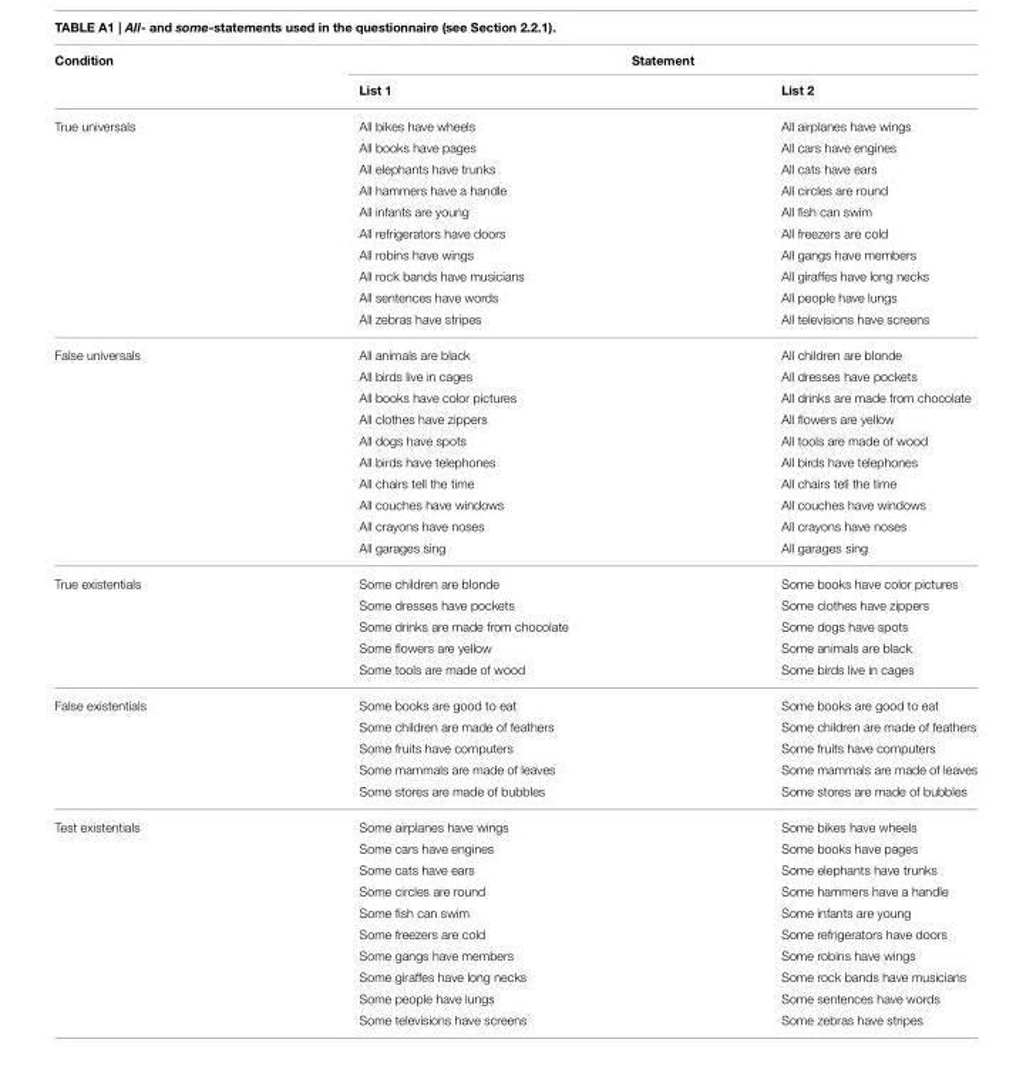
<table><thead><tr><td rowspan="2">Condition</td><td colspan="2">Statement</td></tr><tr><td>List 1</td><td>List 2</td></tr></thead><tbody><tr><td rowspan="10">True universals</td><td>All bikes have wheels</td><td>All airplanes have wings</td></tr><tr><td>All books have pages</td><td>All cars have engines</td></tr><tr><td>All elephants have trunks</td><td>All cats have ears</td></tr><tr><td>All hammers have a handle</td><td>All circles are round</td></tr><tr><td>All infants are young</td><td>All fish can swim</td></tr><tr><td>All refrigerators have doors</td><td>All freezers are cold</td></tr><tr><td>All robins have wings</td><td>All gangs have members</td></tr><tr><td>All rock bands have musicians</td><td>All giraffes have long necks</td></tr><tr><td>All sentences have words</td><td>All people have lungs</td></tr><tr><td>All zebras have stripes</td><td>All televisions have screens</td></tr><tr><td rowspan="10">False universals</td><td>All animals are black</td><td>All children are blonde</td></tr><tr><td>All birds live in cages</td><td>All dresses have pockets</td></tr><tr><td>All books have color pictures</td><td>All drinks are made from chocolate</td></tr><tr><td>All clothes have zippers</td><td>All flowers are yellow</td></tr><tr><td>All dogs have spots</td><td>All tools are made of wood</td></tr><tr><td>All birds have telephones</td><td>All birds have telephones</td></tr><tr><td>All chairs tell the time</td><td>All chairs tell the time</td></tr><tr><td>All couches have windows</td><td>All couches have windows</td></tr><tr><td>All crayons have noses</td><td>All crayons have noses</td></tr><tr><td>All garages sing</td><td>All garages sing</td></tr><tr><td rowspan="5">True existentials</td><td>Some children are blonde</td><td>Some books have color pictures</td></tr><tr><td>Some dresses have pockets</td><td>Some clothes have zippers</td></tr><tr><td>Some drinks are made from chocolate</td><td>Some dogs have spots</td></tr><tr><td>Some flowers are yellow</td><td>Some animals are black</td></tr><tr><td>Some tools are made of wood</td><td>Some birds live in cages</td></tr><tr><td rowspan="5">False existentials</td><td>Some books are good to eat</td><td>Some books are good to eat</td></tr><tr><td>Some children are made of feathers</td><td>Some children are made of feathers</td></tr><tr><td>Some fruits have computers</td><td>Some fruits have computers</td></tr><tr><td>Some mammals are made of leaves</td><td>Some mammals are made of leaves</td></tr><tr><td>Some stores are made of bubbles</td><td>Some stores are made of bubbles</td></tr><tr><td rowspan="10">Test existentials</td><td>Some airplanes have wings</td><td>Some bikes have wheels</td></tr><tr><td>Some cars have engines</td><td>Some books have pages</td></tr><tr><td>Some cats have ears</td><td>Some elephants have trunks</td></tr><tr><td>Some circles are round</td><td>Some hammers have a handle</td></tr><tr><td>Some fish can swim</td><td>Some infants are young</td></tr><tr><td>Some freezers are cold</td><td>Some refrigerators have doors</td></tr><tr><td>Some gangs have members</td><td>Some robins have wings</td></tr><tr><td>Some giraffes have long necks</td><td>Some rock bands have musicians</td></tr><tr><td>Some people have lungs</td><td>Some sentences have words</td></tr><tr><td>Some televisions have screens</td><td>Some zebras have stripes</td></tr></tbody></table>